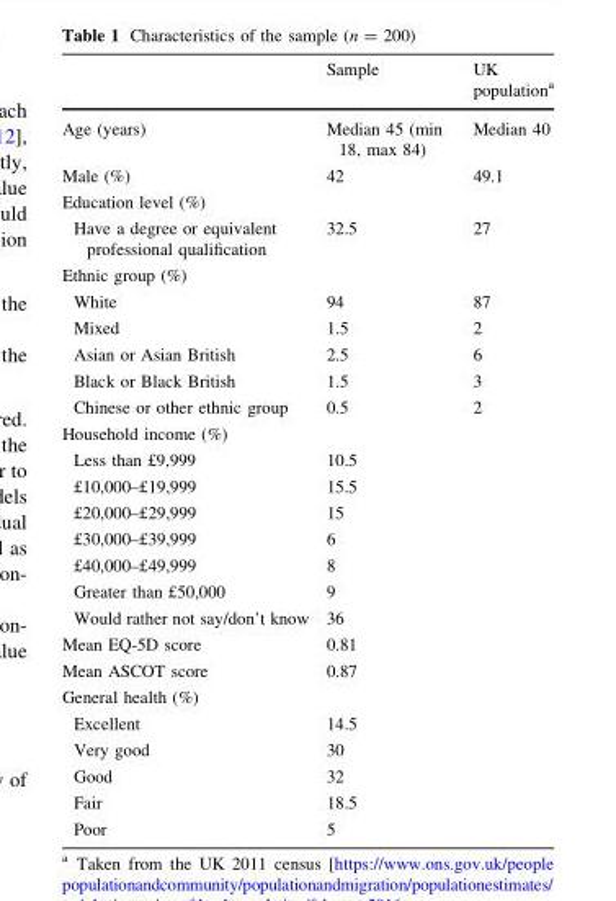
<table><thead><tr><td></td><td>Sample</td><td>UK population<sup>a</sup></td></tr></thead><tbody><tr><td>Age (years)</td><td>Median 45 (min 18, max 84)</td><td>Median 40</td></tr><tr><td>Male (%)</td><td>42</td><td>49.1</td></tr><tr><td colspan="3">Education level (%)</td></tr><tr><td>Have a degree or equivalent professional qualification</td><td>32.5</td><td>27</td></tr><tr><td colspan="3">Ethnic group (%)</td></tr><tr><td>White</td><td>94</td><td>87</td></tr><tr><td>Mixed</td><td>1.5</td><td>2</td></tr><tr><td>Asian or Asian British</td><td>2.5</td><td>6</td></tr><tr><td>Black or Black British</td><td>1.5</td><td>3</td></tr><tr><td>Chinese or other ethnic group</td><td>0.5</td><td>2</td></tr><tr><td colspan="3">Household income (%)</td></tr><tr><td>Less than £9,999</td><td>10.5</td><td></td></tr><tr><td>£10,000–£19,999</td><td>15.5</td><td></td></tr><tr><td>£20,000–£29,999</td><td>15</td><td></td></tr><tr><td>£30,000–£39,999</td><td>6</td><td></td></tr><tr><td>£40,000–£49,999</td><td>8</td><td></td></tr><tr><td>Greater than £50,000</td><td>9</td><td></td></tr><tr><td>Would rather not say/don’t know</td><td>36</td><td></td></tr><tr><td>Mean EQ-5D score</td><td>0.81</td><td></td></tr><tr><td>Mean ASCOT score</td><td>0.87</td><td></td></tr><tr><td colspan="3">General health (%)</td></tr><tr><td>Excellent</td><td>14.5</td><td></td></tr><tr><td>Very good</td><td>30</td><td></td></tr><tr><td>Good</td><td>32</td><td></td></tr><tr><td>Fair</td><td>18.5</td><td></td></tr><tr><td>Poor</td><td>5</td><td></td></tr></tbody></table>